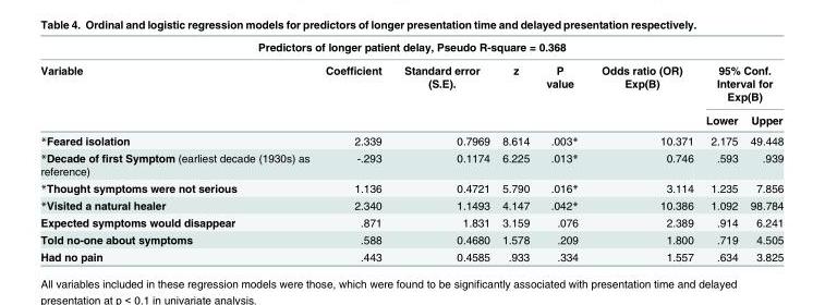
<table><thead><tr><td colspan="8">Predictors of longer patient delay, Pseudo R-square = 0.368</td></tr><tr><td rowspan="2">Variable</td><td rowspan="2">Coefficient</td><td rowspan="2">Standard error (S.E).</td><td rowspan="2">z</td><td rowspan="2">P value</td><td rowspan="2">Odds ratio (OR) Exp(B)</td><td colspan="2">95% Conf. Interval for Exp(B)</td></tr><tr><td>Lower</td><td>Upper</td></tr></thead><tbody><tr><td>*Feared isolation</td><td>2.339</td><td>0.7969</td><td>8.614</td><td>.003*</td><td>10.371</td><td>2.175</td><td>49.448</td></tr><tr><td>*Decade of first Symptom (earliest decade (1930s) as reference)</td><td>-.293</td><td>0.1174</td><td>6.225</td><td>.013*</td><td>0.746</td><td>.593</td><td>.939</td></tr><tr><td>*Thought symptoms were not serious</td><td>1.136</td><td>0.4721</td><td>5.790</td><td>.016*</td><td>3.114</td><td>1.235</td><td>7.856</td></tr><tr><td>*Visited a natural healer</td><td>2.340</td><td>1.1493</td><td>4.147</td><td>.042*</td><td>10.386</td><td>1.092</td><td>98.784</td></tr><tr><td>Expected symptoms would disappear</td><td>.871</td><td>1.831</td><td>3.159</td><td>.076</td><td>2.389</td><td>.914</td><td>6.241</td></tr><tr><td>Told no-one about symptoms</td><td>.588</td><td>0.4680</td><td>1.578</td><td>.209</td><td>1.800</td><td>.719</td><td>4.505</td></tr><tr><td>Had no pain</td><td>.443</td><td>0.4585</td><td>.933</td><td>.334</td><td>1.557</td><td>.634</td><td>3.825</td></tr></tbody></table>